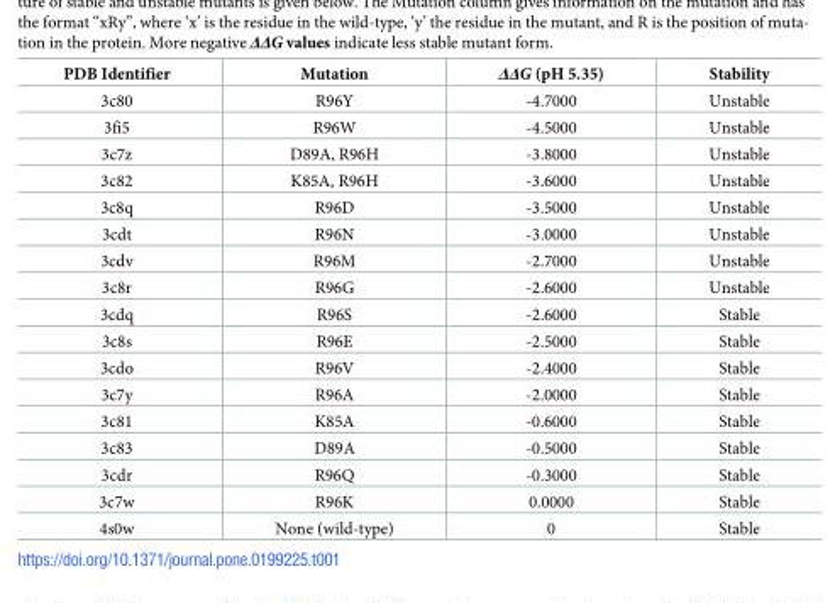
<table><thead><tr><td>PDB Identifier</td><td>Mutation</td><td>ΔΔG (pH 5.35)</td><td>Stability</td></tr></thead><tbody><tr><td>3c80</td><td>R96Y</td><td>-4.7000</td><td>Unstable</td></tr><tr><td>3fi5</td><td>R96W</td><td>-4.5000</td><td>Unstable</td></tr><tr><td>3c7z</td><td>D89A, R96H</td><td>-3.8000</td><td>Unstable</td></tr><tr><td>3c82</td><td>K85A, R96H</td><td>-3.6000</td><td>Unstable</td></tr><tr><td>3c8q</td><td>R96D</td><td>-3.5000</td><td>Unstable</td></tr><tr><td>3cdt</td><td>R96N</td><td>-3.0000</td><td>Unstable</td></tr><tr><td>3cdv</td><td>R96M</td><td>-2.7000</td><td>Unstable</td></tr><tr><td>3c8r</td><td>R96G</td><td>-2.6000</td><td>Unstable</td></tr><tr><td>3cdq</td><td>R96S</td><td>-2.6000</td><td>Stable</td></tr><tr><td>3c8s</td><td>R96E</td><td>-2.5000</td><td>Stable</td></tr><tr><td>3cdo</td><td>R96V</td><td>-2.4000</td><td>Stable</td></tr><tr><td>3c7y</td><td>R96A</td><td>-2.0000</td><td>Stable</td></tr><tr><td>3c81</td><td>K85A</td><td>-0.6000</td><td>Stable</td></tr><tr><td>3c83</td><td>D89A</td><td>-0.5000</td><td>Stable</td></tr><tr><td>3cdr</td><td>R96Q</td><td>-0.3000</td><td>Stable</td></tr><tr><td>3c7w</td><td>R96K</td><td>0.0000</td><td>Stable</td></tr><tr><td>4s0w</td><td>None (wild-type)</td><td>0</td><td>Stable</td></tr></tbody></table>